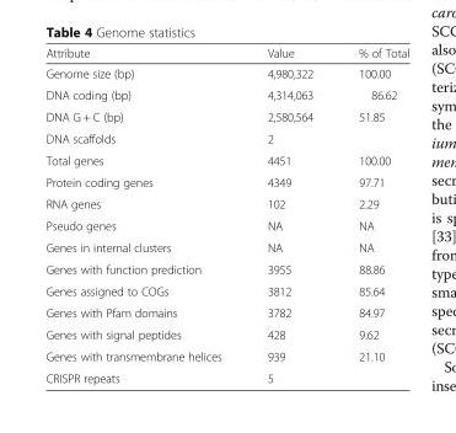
<table><thead><tr><td>Attribute</td><td>Value</td><td>% of Total</td></tr></thead><tbody><tr><td>Genome size (bp)</td><td>4,980,322</td><td>100.00</td></tr><tr><td>DNA coding (bp)</td><td>4,314,063</td><td>86.62</td></tr><tr><td>DNA G + C (bp)</td><td>2,580,564</td><td>51.85</td></tr><tr><td>DNA scaffolds</td><td>2</td><td></td></tr><tr><td>Total genes</td><td>4451</td><td>100.00</td></tr><tr><td>Protein coding genes</td><td>4349</td><td>97.71</td></tr><tr><td>RNA genes</td><td>102</td><td>2.29</td></tr><tr><td>Pseudo genes</td><td>NA</td><td>NA</td></tr><tr><td>Genes in internal clusters</td><td>NA</td><td>NA</td></tr><tr><td>Genes with function prediction</td><td>3955</td><td>88.86</td></tr><tr><td>Genes assigned to COGs</td><td>3812</td><td>85.64</td></tr><tr><td>Genes with Pfam domains</td><td>3782</td><td>84.97</td></tr><tr><td>Genes with signal peptides</td><td>428</td><td>9.62</td></tr><tr><td>Genes with transmembrane helices</td><td>939</td><td>21.10</td></tr><tr><td>CRISPR repeats</td><td>5</td><td></td></tr></tbody></table>